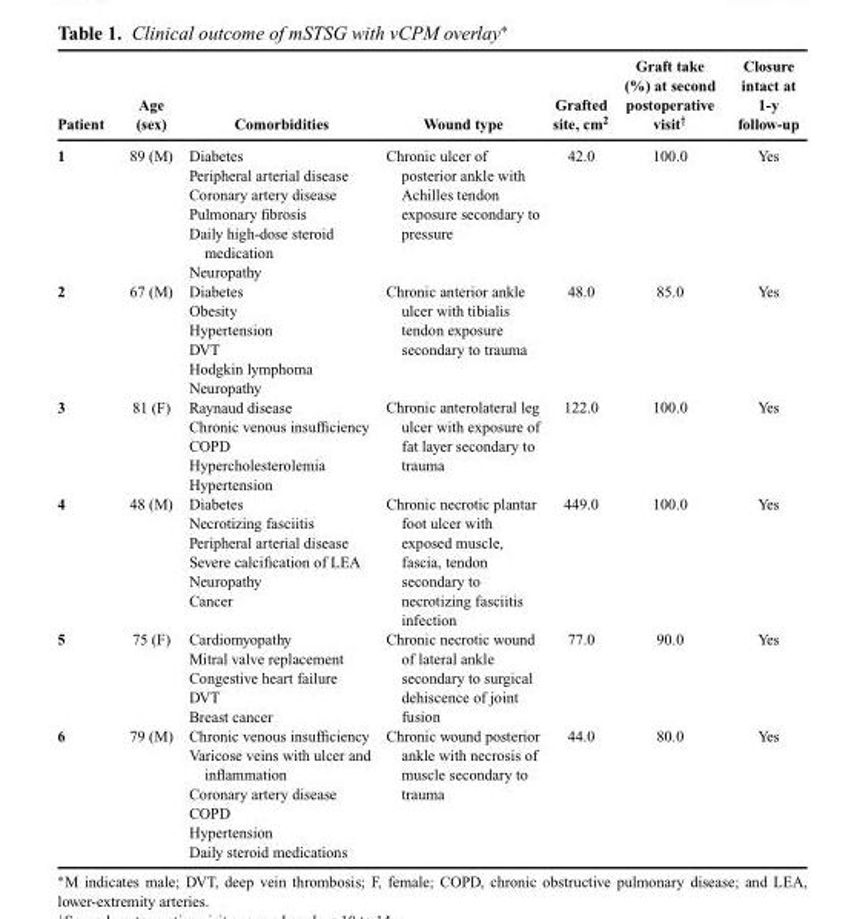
<table><thead><tr><td>Patient</td><td>Age (sex)</td><td>Comorbidities</td><td>Wound type</td><td>Grafted site, cm<sup>2</sup></td><td>Graft take (%) at second postoperative visit<sup>†</sup></td><td>Closure intact at 1-y follow-up</td></tr></thead><tbody><tr><td>1</td><td>89 (M)</td><td>Diabetes Peripheral arterial disease Coronary artery disease Pulmonary fibrosis Daily high-dose steroid medication Neuropathy</td><td>Chronic ulcer of posterior ankle with Achilles tendon exposure secondary to pressure</td><td>42.0</td><td>100.0</td><td>Yes</td></tr><tr><td>2</td><td>67 (M)</td><td>Diabetes Obesity Hypertension DVT Hodgkin lymphoma Neuropathy</td><td>Chronic anterior ankle ulcer with tibialis tendon exposure secondary to trauma</td><td>48.0</td><td>85.0</td><td>Yes</td></tr><tr><td>3</td><td>81 (F)</td><td>Raynaud disease Chronic venous insufficiency COPD Hypercholesterolemia Hypertension</td><td>Chronic anterolateral leg ulcer with exposure of fat layer secondary to trauma</td><td>122.0</td><td>100.0</td><td>Yes</td></tr><tr><td>4</td><td>48 (M)</td><td>Diabetes Necrotizing fasciitis Peripheral arterial disease Severe calcification of LEA Neuropathy Cancer</td><td>Chronic necrotic plantar foot ulcer with exposed muscle, fascia, tendon secondary to necrotizing fasciitis infection</td><td>449.0</td><td>100.0</td><td>Yes</td></tr><tr><td>5</td><td>75 (F)</td><td>Cardiomyopathy Mitral valve replacement Congestive heart failure DVT Breast cancer</td><td>Chronic necrotic wound of lateral ankle secondary to surgical dehiscence of joint fusion</td><td>77.0</td><td>90.0</td><td>Yes</td></tr><tr><td>6</td><td>79 (M)</td><td>Chronic venous insufficiency Varicose veins with ulcer and inflammation Coronary artery disease COPD Hypertension Daily steroid medications</td><td>Chronic wound posterior ankle with necrosis of muscle secondary to trauma</td><td>44.0</td><td>80.0</td><td>Yes</td></tr></tbody></table>